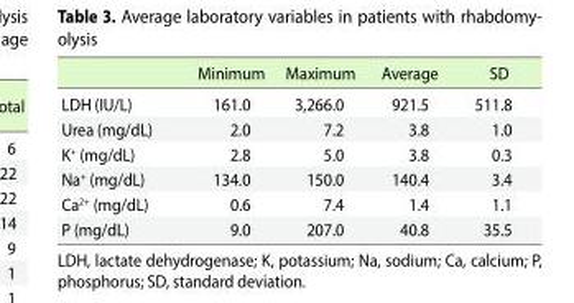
<table><thead><tr><td></td><td>Minimum</td><td>Maximum</td><td>Average</td><td>SD</td></tr></thead><tbody><tr><td>LDH (IU/L)</td><td>161.0</td><td>3,266.0</td><td>921.5</td><td>511.8</td></tr><tr><td>Urea (mg/dL)</td><td>2.0</td><td>7.2</td><td>3.8</td><td>1.0</td></tr><tr><td>K<sup>+</sup> (mg/dL)</td><td>2.8</td><td>5.0</td><td>3.8</td><td>0.3</td></tr><tr><td>Na<sup>+</sup> (mg/dL)</td><td>134.0</td><td>150.0</td><td>140.4</td><td>3.4</td></tr><tr><td>Ca<sup>2+</sup> (mg/dL)</td><td>0.6</td><td>7.4</td><td>1.4</td><td>1.1</td></tr><tr><td>P (mg/dL)</td><td>9.0</td><td>207.0</td><td>40.8</td><td>35.5</td></tr></tbody></table>